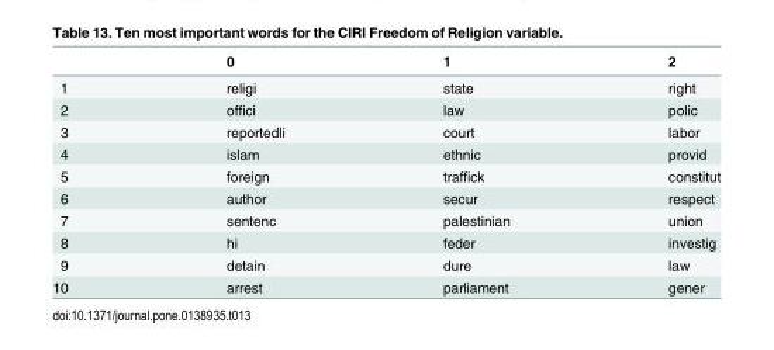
<table><thead><tr><td></td><td>0</td><td>1</td><td>2</td></tr></thead><tbody><tr><td>1</td><td>religi</td><td>state</td><td>right</td></tr><tr><td>2</td><td>offici</td><td>law</td><td>polic</td></tr><tr><td>3</td><td>reportedli</td><td>court</td><td>labor</td></tr><tr><td>4</td><td>islam</td><td>ethnic</td><td>provid</td></tr><tr><td>5</td><td>foreign</td><td>traffick</td><td>constitut</td></tr><tr><td>6</td><td>author</td><td>secur</td><td>respect</td></tr><tr><td>7</td><td>sentenc</td><td>palestinian</td><td>union</td></tr><tr><td>8</td><td>hi</td><td>feder</td><td>investig</td></tr><tr><td>9</td><td>detain</td><td>dure</td><td>law</td></tr><tr><td>10</td><td>arrest</td><td>parliament</td><td>gener</td></tr></tbody></table>